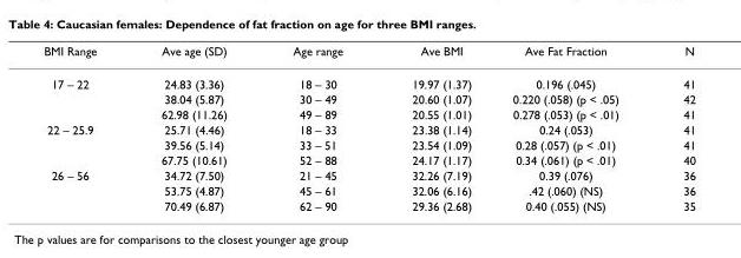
<table><thead><tr><td>BMI Range</td><td>Ave age (SD)</td><td>Age range</td><td>Ave BMI</td><td>Ave Fat Fraction</td><td>N</td></tr></thead><tbody><tr><td rowspan="3">17 – 22</td><td>24.83 (3.36)</td><td>18 – 30</td><td>19.97 (1.37)</td><td>0.196 (.045)</td><td>41</td></tr><tr><td>38.04 (5.87)</td><td>30 – 49</td><td>20.60 (1.07)</td><td>0.220 (.058) (p &lt; .05)</td><td>42</td></tr><tr><td>62.98 (11.26)</td><td>49 – 89</td><td>20.55 (1.01)</td><td>0.278 (.053) (p &lt; .01)</td><td>41</td></tr><tr><td rowspan="3">22 – 25.9</td><td>25.71 (4.46)</td><td>18 – 33</td><td>23.38 (1.14)</td><td>0.24 (.053)</td><td>41</td></tr><tr><td>39.56 (5.14)</td><td>33 – 51</td><td>23.54 (1.09)</td><td>0.28 (.057) (p &lt; .01)</td><td>41</td></tr><tr><td>67.75 (10.61)</td><td>52 – 88</td><td>24.17 (1.17)</td><td>0.34 (.061) (p &lt; .01)</td><td>40</td></tr><tr><td rowspan="3">26 – 56</td><td>34.72 (7.50)</td><td>21 – 45</td><td>32.26 (7.19)</td><td>0.39 (.076)</td><td>36</td></tr><tr><td>53.75 (4.87)</td><td>45 – 61</td><td>32.06 (6.16)</td><td>.42 (.060) (NS)</td><td>36</td></tr><tr><td>70.49 (6.87)</td><td>62 – 90</td><td>29.36 (2.68)</td><td>0.40 (.055) (NS)</td><td>35</td></tr></tbody></table>